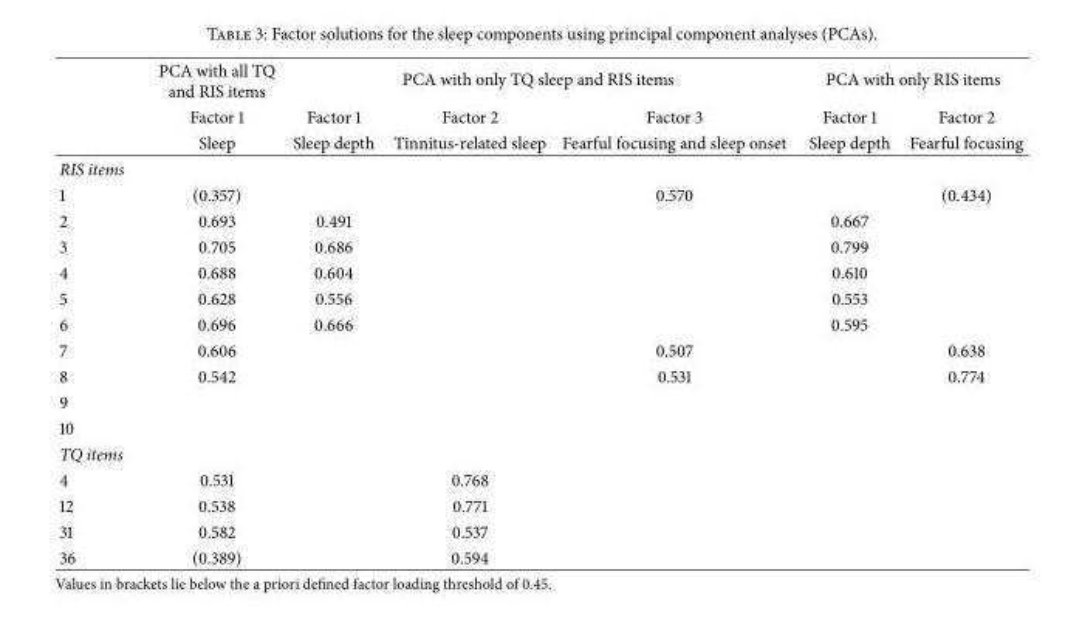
<table><thead><tr><td rowspan="3"></td><td rowspan="3">PCA with all TQ and RIS items Factor 1 Sleep</td><td colspan="3">PCA with only TQ sleep and RIS items</td><td colspan="2">PCA with only RIS items</td></tr><tr><td rowspan="2">Factor 1 Sleep depth</td><td rowspan="2">Factor 2 Tinnitus-related sleep</td><td rowspan="2">Factor 3 Fearful focusing and sleep onset</td><td rowspan="2">Factor 1 Sleep depth</td><td rowspan="2">Factor 2 Fearful focusing</td></tr><tr></tr></thead><tbody><tr><td colspan="7">RIS items</td></tr><tr><td>1</td><td>(0.357)</td><td></td><td></td><td>0.570</td><td></td><td>(0.434)</td></tr><tr><td>2</td><td>0.693</td><td>0.491</td><td></td><td></td><td>0.667</td><td></td></tr><tr><td>3</td><td>0.705</td><td>0.686</td><td></td><td></td><td>0.799</td><td></td></tr><tr><td>4</td><td>0.688</td><td>0.604</td><td></td><td></td><td>0.610</td><td></td></tr><tr><td>5</td><td>0.628</td><td>0.556</td><td></td><td></td><td>0.553</td><td></td></tr><tr><td>6</td><td>0.696</td><td>0.666</td><td></td><td></td><td>0.595</td><td></td></tr><tr><td>7</td><td>0.606</td><td></td><td></td><td>0.507</td><td></td><td>0.638</td></tr><tr><td>8</td><td>0.542</td><td></td><td></td><td>0.531</td><td></td><td>0.774</td></tr><tr><td colspan="7">9</td></tr><tr><td colspan="7">10</td></tr><tr><td colspan="7">TQ items</td></tr><tr><td>4</td><td>0.531</td><td></td><td>0.768</td><td></td><td></td><td></td></tr><tr><td>12</td><td>0.538</td><td></td><td>0.771</td><td></td><td></td><td></td></tr><tr><td>31</td><td>0.582</td><td></td><td>0.537</td><td></td><td></td><td></td></tr><tr><td>36</td><td>(0.389)</td><td></td><td>0.594</td><td></td><td></td><td></td></tr></tbody></table>